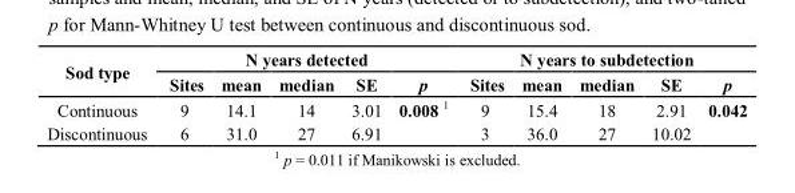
<table><thead><tr><td rowspan="2">Sod type</td><td colspan="5">N years detected</td><td colspan="5">N years to subdetection</td></tr><tr><td>Sites</td><td>mean</td><td>median</td><td>SE</td><td>p</td><td>Sites</td><td>mean</td><td>median</td><td>SE</td><td>p</td></tr></thead><tbody><tr><td>Continuous</td><td>9</td><td>14.1</td><td>14</td><td>3.01</td><td>0.008 <sup>1</sup></td><td>9</td><td>15.4</td><td>18</td><td>2.91</td><td>0.042</td></tr><tr><td>Discontinuous</td><td>6</td><td>31.0</td><td>27</td><td>6.91</td><td></td><td>3</td><td>36.0</td><td>27</td><td>10.02</td><td></td></tr></tbody></table>